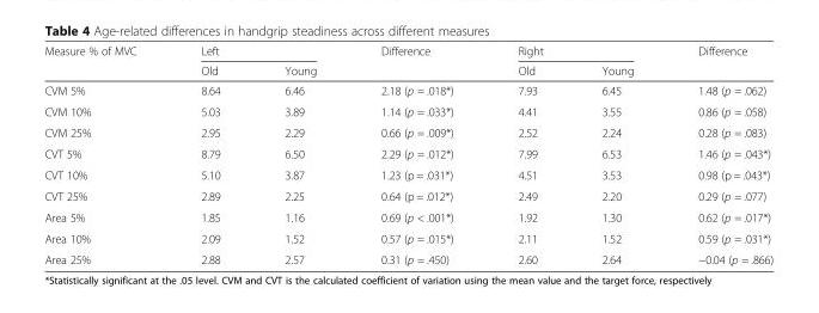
<table><thead><tr><td rowspan="2">Measure % of MVC</td><td colspan="2">Left</td><td rowspan="2">Difference</td><td colspan="2">Right</td><td rowspan="2">Difference</td></tr><tr><td>Old</td><td>Young</td><td>Old</td><td>Young</td></tr></thead><tbody><tr><td>CVM 5%</td><td>8.64</td><td>6.46</td><td>2.18 (p = .018*)</td><td>7.93</td><td>6.45</td><td>1.48 (p = .062)</td></tr><tr><td>CVM 10%</td><td>5.03</td><td>3.89</td><td>1.14 (p = .033*)</td><td>4.41</td><td>3.55</td><td>0.86 (p = .058)</td></tr><tr><td>CVM 25%</td><td>2.95</td><td>2.29</td><td>0.66 (p = .009*)</td><td>2.52</td><td>2.24</td><td>0.28 (p = .083)</td></tr><tr><td>CVT 5%</td><td>8.79</td><td>6.50</td><td>2.29 (p = .012*)</td><td>7.99</td><td>6.53</td><td>1.46 (p = .043*)</td></tr><tr><td>CVT 10%</td><td>5.10</td><td>3.87</td><td>1.23 (p = .031*)</td><td>4.51</td><td>3.53</td><td>0.98 (p = .043*)</td></tr><tr><td>CVT 25%</td><td>2.89</td><td>2.25</td><td>0.64 (p = .012*)</td><td>2.49</td><td>2.20</td><td>0.29 (p = .077)</td></tr><tr><td>Area 5%</td><td>1.85</td><td>1.16</td><td>0.69 (p &lt; .001*)</td><td>1.92</td><td>1.30</td><td>0.62 (p = .017*)</td></tr><tr><td>Area 10%</td><td>2.09</td><td>1.52</td><td>0.57 (p = .015*)</td><td>2.11</td><td>1.52</td><td>0.59 (p = .031*)</td></tr><tr><td>Area 25%</td><td>2.88</td><td>2.57</td><td>0.31 (p = .450)</td><td>2.60</td><td>2.64</td><td>−0.04 (p = .866)</td></tr></tbody></table>